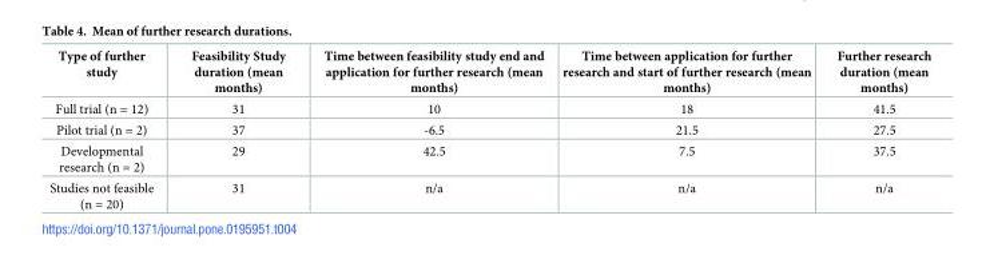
<table><thead><tr><td>Type of further study</td><td>Feasibility Study duration (mean months)</td><td>Time between feasibility study end and application for further research (mean months)</td><td>Time between application for further research and start of further research (mean months)</td><td>Further research duration (mean months)</td></tr></thead><tbody><tr><td>Full trial (n = 12)</td><td>31</td><td>10</td><td>18</td><td>41.5</td></tr><tr><td>Pilot trial (n = 2)</td><td>37</td><td>-6.5</td><td>21.5</td><td>27.5</td></tr><tr><td>Developmental research (n = 2)</td><td>29</td><td>42.5</td><td>7.5</td><td>37.5</td></tr><tr><td>Studies not feasible (n = 20)</td><td>31</td><td>n/a</td><td>n/a</td><td>n/a</td></tr></tbody></table>